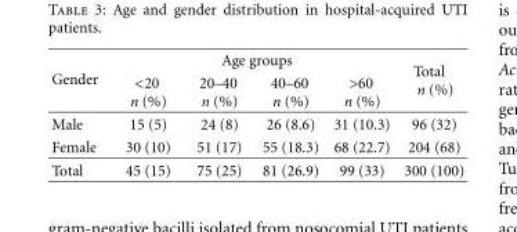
<table><thead><tr><td rowspan="2">Gender</td><td colspan="4">Age groups</td><td rowspan="2">Total n (%)</td></tr><tr><td>&lt;20 n (%)</td><td>20–40 n (%)</td><td>40–60 n (%)</td><td>&gt;60 n (%)</td></tr></thead><tbody><tr><td>Male</td><td>15 (5)</td><td>24 (8)</td><td>26 (8.6)</td><td>31 (10.3)</td><td>96 (32)</td></tr><tr><td>Female</td><td>30 (10)</td><td>51 (17)</td><td>55 (18.3)</td><td>68 (22.7)</td><td>204 (68)</td></tr><tr><td>Total</td><td>45 (15)</td><td>75 (25)</td><td>81 (26.9)</td><td>99 (33)</td><td>300 (100)</td></tr></tbody></table>